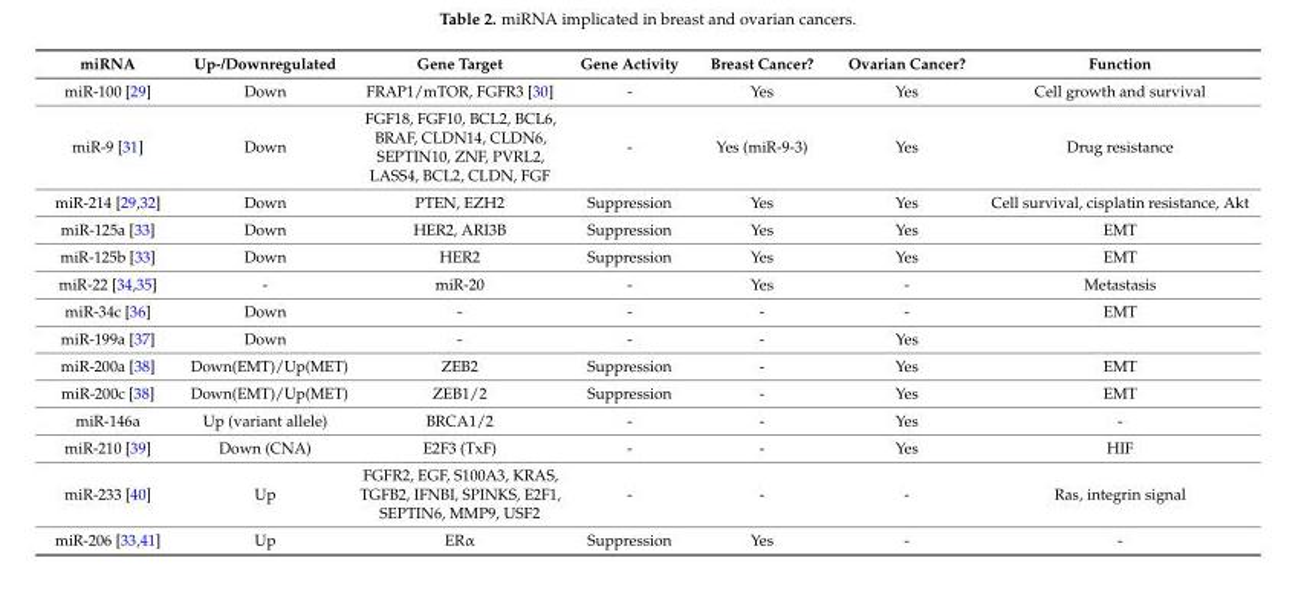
<table><thead><tr><td>miRNA</td><td>Up-/Downregulated</td><td>Gene Target</td><td>Gene Activity</td><td>Breast Cancer?</td><td>Ovarian Cancer?</td><td>Function</td></tr></thead><tbody><tr><td>miR-100 [29]</td><td>Down</td><td>FRAP1/mTOR, FGFR3 [30]</td><td>-</td><td>Yes</td><td>Yes</td><td>Cell growth and survival</td></tr><tr><td>miR-9 [31]</td><td>Down</td><td>FGF18, FGF10, BCL2, BCL6, BRAF, CLDN14, CLDN6, SEPTIN10, ZNF, PVRL2, LASS4, BCL2, CLDN, FGF</td><td>-</td><td>Yes (miR-9-3)</td><td>Yes</td><td>Drug resistance</td></tr><tr><td>miR-214 [29,32]</td><td>Down</td><td>PTEN, EZH2</td><td>Suppression</td><td>Yes</td><td>Yes</td><td>Cell survival, cisplatin resistance, Akt</td></tr><tr><td>miR-125a [33]</td><td>Down</td><td>HER2, ARI3B</td><td>Suppression</td><td>Yes</td><td>Yes</td><td>EMT</td></tr><tr><td>miR-125b [33]</td><td>Down</td><td>HER2</td><td>Suppression</td><td>Yes</td><td>Yes</td><td>EMT</td></tr><tr><td>miR-22 [34,35]</td><td>-</td><td>miR-20</td><td>-</td><td>Yes</td><td>-</td><td>Metastasis</td></tr><tr><td>miR-34c [36]</td><td>Down</td><td>-</td><td>-</td><td>-</td><td>-</td><td>EMT</td></tr><tr><td>miR-199a [37]</td><td>Down</td><td>-</td><td>-</td><td>-</td><td>Yes</td><td></td></tr><tr><td>miR-200a [38]</td><td>Down(EMT)/Up(MET)</td><td>ZEB2</td><td>Suppression</td><td>-</td><td>Yes</td><td>EMT</td></tr><tr><td>miR-200c [38]</td><td>Down(EMT)/Up(MET)</td><td>ZEB1/2</td><td>Suppression</td><td>-</td><td>Yes</td><td>EMT</td></tr><tr><td>miR-146a</td><td>Up (variant allele)</td><td>BRCA1/2</td><td>-</td><td>-</td><td>Yes</td><td>-</td></tr><tr><td>miR-210 [39]</td><td>Down (CNA)</td><td>E2F3 (TxF)</td><td>-</td><td>-</td><td>Yes</td><td>HIF</td></tr><tr><td>miR-233 [40]</td><td>Up</td><td>FGFR2, EGF, S100A3, KRAS, TGFB2, IFNBI, SPINKS, E2F1, SEPTIN6, MMP9, USF2</td><td>-</td><td>-</td><td>-</td><td>Ras, integrin signal</td></tr><tr><td>miR-206 [33,41]</td><td>Up</td><td>ERα</td><td>Suppression</td><td>Yes</td><td>-</td><td>-</td></tr></tbody></table>